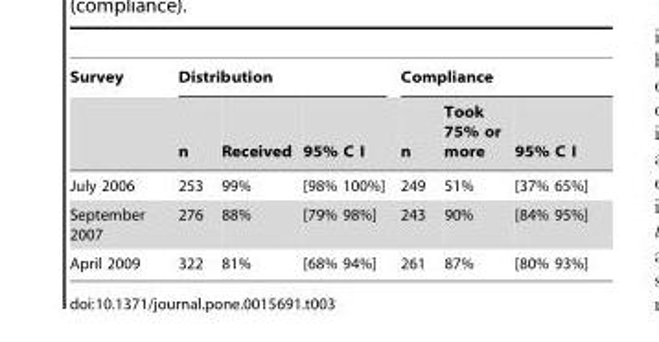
<table><thead><tr><td rowspan="2">Survey</td><td colspan="3">Distribution</td><td colspan="3">Compliance</td></tr><tr><td>n</td><td>Received</td><td>95% C I</td><td>n</td><td>Took 75% or more</td><td>95% C I</td></tr></thead><tbody><tr><td>July 2006</td><td>253</td><td>99%</td><td>[98% 100%]</td><td>249</td><td>51%</td><td>[37% 65%]</td></tr><tr><td>September 2007</td><td>276</td><td>88%</td><td>[79% 98%]</td><td>243</td><td>90%</td><td>[84% 95%]</td></tr><tr><td>April 2009</td><td>322</td><td>81%</td><td>[68% 94%]</td><td>261</td><td>87%</td><td>[80% 93%]</td></tr></tbody></table>